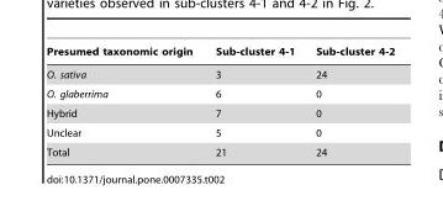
<table><thead><tr><td>Presumed taxonomic origin</td><td>Sub-cluster 4-1</td><td>Sub-cluster 4-2</td></tr></thead><tbody><tr><td>O. sativa</td><td>3</td><td>24</td></tr><tr><td>O. glaberrima</td><td>6</td><td>0</td></tr><tr><td>Hybrid</td><td>7</td><td>0</td></tr><tr><td>Unclear</td><td>5</td><td>0</td></tr><tr><td>Total</td><td>21</td><td>24</td></tr></tbody></table>